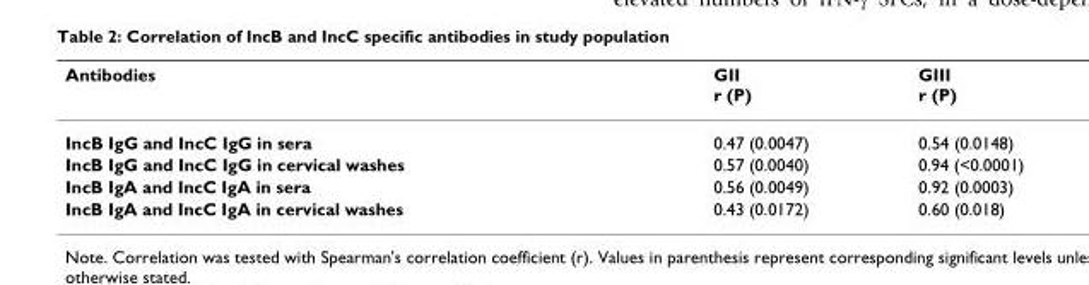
<table><thead><tr><td>Antibodies</td><td>GII r (P)</td><td>GIII r (P)</td></tr></thead><tbody><tr><td>IncB IgG and IncC IgG in sera</td><td>0.47 (0.0047)</td><td>0.54 (0.0148)</td></tr><tr><td>IncB IgG and IncC IgG in cervical washes</td><td>0.57 (0.0040)</td><td>0.94 (&lt;0.0001)</td></tr><tr><td>IncB IgA and IncC IgA in sera</td><td>0.56 (0.0049)</td><td>0.92 (0.0003)</td></tr><tr><td>IncB IgA and IncC IgA in cervical washes</td><td>0.43 (0.0172)</td><td>0.60 (0.018)</td></tr></tbody></table>